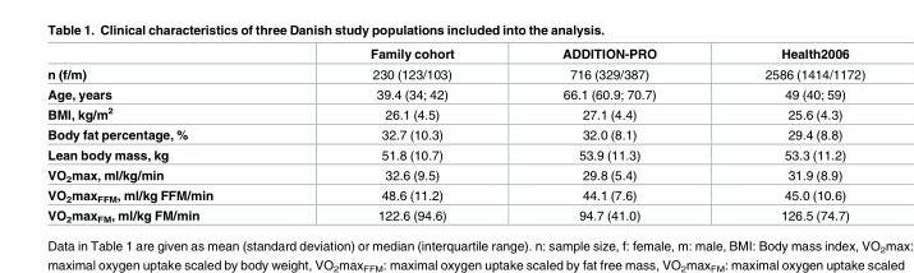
<table><thead><tr><td></td><td>Family cohort</td><td>ADDITION-PRO</td><td>Health2006</td></tr></thead><tbody><tr><td>n (f/m)</td><td>230 (123/103)</td><td>716 (329/387)</td><td>2586 (1414/1172)</td></tr><tr><td>Age, years</td><td>39.4 (34; 42)</td><td>66.1 (60.9; 70.7)</td><td>49 (40; 59)</td></tr><tr><td>BMI, kg/m<sup>2</sup></td><td>26.1 (4.5)</td><td>27.1 (4.4)</td><td>25.6 (4.3)</td></tr><tr><td>Body fat percentage, %</td><td>32.7 (10.3)</td><td>32.0 (8.1)</td><td>29.4 (8.8)</td></tr><tr><td>Lean body mass, kg</td><td>51.8 (10.7)</td><td>53.9 (11.3)</td><td>53.3 (11.2)</td></tr><tr><td>VO<sub>2</sub>max, ml/kg/min</td><td>32.6 (9.5)</td><td>29.8 (5.4)</td><td>31.9 (8.9)</td></tr><tr><td>VO<sub>2</sub>max<sub>FFM</sub>, ml/kg FFM/min</td><td>48.6 (11.2)</td><td>44.1 (7.6)</td><td>45.0 (10.6)</td></tr><tr><td>VO<sub>2</sub>max<sub>FM</sub>, ml/kg FM/min</td><td>122.6 (94.6)</td><td>94.7 (41.0)</td><td>126.5 (74.7)</td></tr></tbody></table>